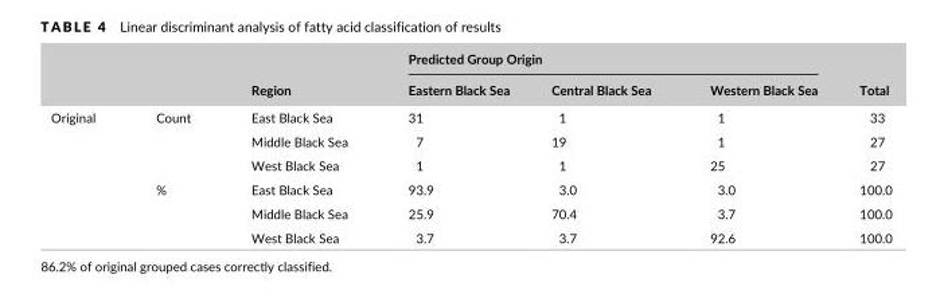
<table><thead><tr><td rowspan="2"></td><td rowspan="2"></td><td rowspan="2">Region</td><td colspan="3">Predicted Group Origin</td><td rowspan="2">Total</td></tr><tr><td>Eastern Black Sea</td><td>Central Black Sea</td><td>Western Black Sea</td></tr></thead><tbody><tr><td rowspan="6">Original</td><td rowspan="3">Count</td><td>East Black Sea</td><td>31</td><td>1</td><td>1</td><td>33</td></tr><tr><td>Middle Black Sea</td><td>7</td><td>19</td><td>1</td><td>27</td></tr><tr><td>West Black Sea</td><td>1</td><td>1</td><td>25</td><td>27</td></tr><tr><td rowspan="3">%</td><td>East Black Sea</td><td>93.9</td><td>3.0</td><td>3.0</td><td>100.0</td></tr><tr><td>Middle Black Sea</td><td>25.9</td><td>70.4</td><td>3.7</td><td>100.0</td></tr><tr><td>West Black Sea</td><td>3.7</td><td>3.7</td><td>92.6</td><td>100.0</td></tr></tbody></table>